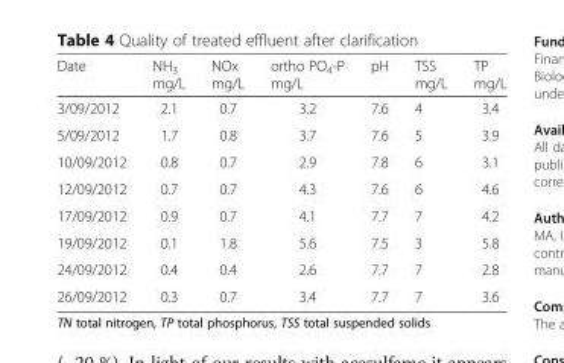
<table><thead><tr><td>Date</td><td>NH<sub>3</sub> mg/L</td><td>NOx mg/L</td><td>ortho PO<sub>4</sub>-P mg/L</td><td>pH</td><td>TSS mg/L</td><td>TP mg/L</td></tr></thead><tbody><tr><td>3/09/2012</td><td>2.1</td><td>0.7</td><td>3.2</td><td>7.6</td><td>4</td><td>3.4</td></tr><tr><td>5/09/2012</td><td>1.7</td><td>0.8</td><td>3.7</td><td>7.6</td><td>5</td><td>3.9</td></tr><tr><td>10/09/2012</td><td>0.8</td><td>0.7</td><td>2.9</td><td>7.8</td><td>6</td><td>3.1</td></tr><tr><td>12/09/2012</td><td>0.7</td><td>0.7</td><td>4.3</td><td>7.6</td><td>6</td><td>4.6</td></tr><tr><td>17/09/2012</td><td>0.9</td><td>0.7</td><td>4.1</td><td>7.7</td><td>7</td><td>4.2</td></tr><tr><td>19/09/2012</td><td>0.1</td><td>1.8</td><td>5.6</td><td>7.5</td><td>3</td><td>5.8</td></tr><tr><td>24/09/2012</td><td>0.4</td><td>0.4</td><td>2.6</td><td>7.7</td><td>7</td><td>2.8</td></tr><tr><td>26/09/2012</td><td>0.3</td><td>0.7</td><td>3.4</td><td>7.7</td><td>7</td><td>3.6</td></tr></tbody></table>